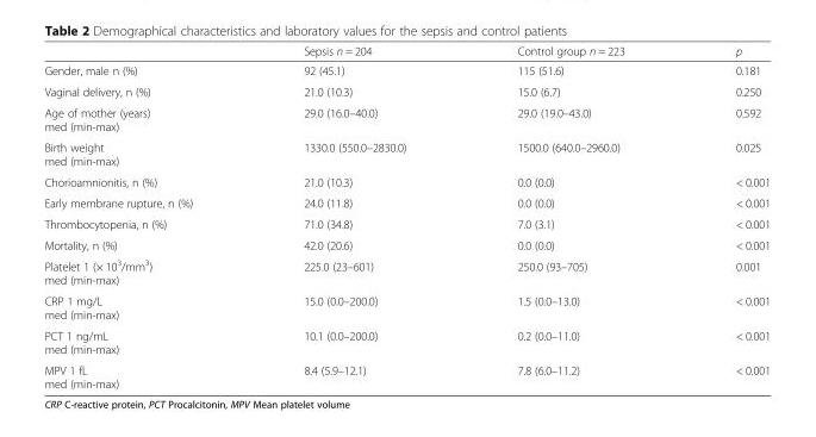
<table><thead><tr><td></td><td>Sepsis n = 204</td><td>Control group n = 223</td><td>p</td></tr></thead><tbody><tr><td>Gender, male n (%)</td><td>92 (45.1)</td><td>115 (51.6)</td><td>0.181</td></tr><tr><td>Vaginal delivery, n (%)</td><td>21.0 (10.3)</td><td>15.0 (6.7)</td><td>0.250</td></tr><tr><td>Age of mother (years) med (min-max)</td><td>29.0 (16.0–40.0)</td><td>29.0 (19.0–43.0)</td><td>0.592</td></tr><tr><td>Birth weight med (min-max)</td><td>1330.0 (550.0–2830.0)</td><td>1500.0 (640.0–2960.0)</td><td>0.025</td></tr><tr><td>Chorioamnionitis, n (%)</td><td>21.0 (10.3)</td><td>0.0 (0.0)</td><td>&lt; 0.001</td></tr><tr><td>Early membrane rupture, n (%)</td><td>24.0 (11.8)</td><td>0.0 (0.0)</td><td>&lt; 0.001</td></tr><tr><td>Thrombocytopenia, n (%)</td><td>71.0 (34.8)</td><td>7.0 (3.1)</td><td>&lt; 0.001</td></tr><tr><td>Mortality, n (%)</td><td>42.0 (20.6)</td><td>0.0 (0.0)</td><td>&lt; 0.001</td></tr><tr><td>Platelet 1 (× 10<sup>3</sup>/mm<sup>3</sup>) med (min-max)</td><td>225.0 (23–601)</td><td>250.0 (93–705)</td><td>0.001</td></tr><tr><td>CRP 1 mg/L med (min-max)</td><td>15.0 (0.0–200.0)</td><td>1.5 (0.0–13.0)</td><td>&lt; 0.001</td></tr><tr><td>PCT 1 ng/mL med (min-max)</td><td>10.1 (0.0–200.0)</td><td>0.2 (0.0–11.0)</td><td>&lt; 0.001</td></tr><tr><td>MPV 1 fL med (min-max)</td><td>8.4 (5.9–12.1)</td><td>7.8 (6.0–11.2)</td><td>&lt; 0.001</td></tr></tbody></table>